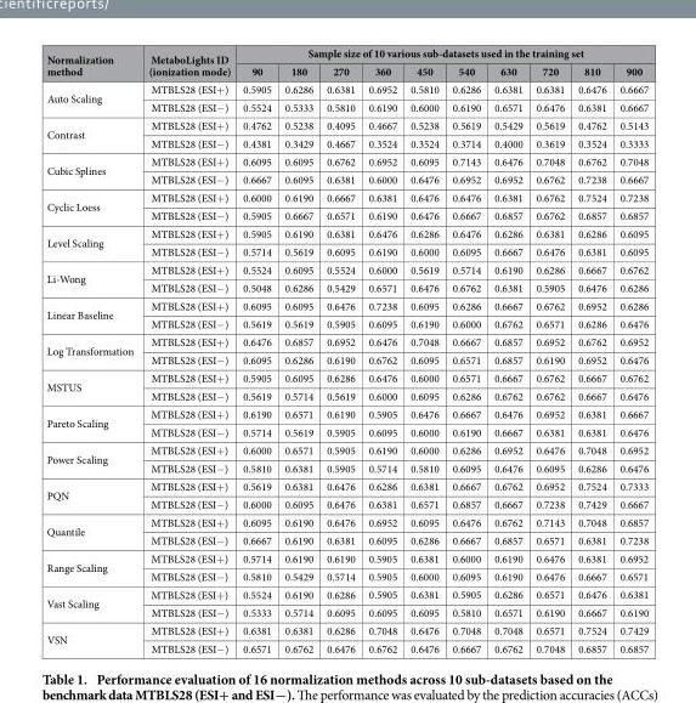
<table><thead><tr><td rowspan="2">Normalization method</td><td rowspan="2">MetaboLights ID (ionization mode)</td><td colspan="10">Sample size of 10 various sub-datasets used in the training set</td></tr><tr><td>90</td><td>180</td><td>270</td><td>360</td><td>450</td><td>540</td><td>630</td><td>720</td><td>810</td><td>900</td></tr></thead><tbody><tr><td rowspan="2">Auto Scaling</td><td>MTBLS28 (ESI+ )</td><td>0.5905</td><td>0.6286</td><td>0.6381</td><td>0.6952</td><td>0.5810</td><td>0.6286</td><td>0.6381</td><td>0.6381</td><td>0.6476</td><td>0.6667</td></tr><tr><td>MTBLS28 (ESI− )</td><td>0.5524</td><td>0.5333</td><td>0.5810</td><td>0.6190</td><td>0.6000</td><td>0.6190</td><td>0.6571</td><td>0.6476</td><td>0.6381</td><td>0.6667</td></tr><tr><td rowspan="2">Contrast</td><td>MTBLS28 (ESI+ )</td><td>0.4762</td><td>0.5238</td><td>0.4095</td><td>0.4667</td><td>0.5238</td><td>0.5619</td><td>0.5429</td><td>0.5619</td><td>0.4762</td><td>0.5143</td></tr><tr><td>MTBLS28 (ESI− )</td><td>0.4381</td><td>0.3429</td><td>0.4667</td><td>0.3524</td><td>0.3524</td><td>0.3714</td><td>0.4000</td><td>0.3619</td><td>0.3524</td><td>0.3333</td></tr><tr><td rowspan="2">Cubic Splines</td><td>MTBLS28 (ESI+ )</td><td>0.6095</td><td>0.6095</td><td>0.6762</td><td>0.6952</td><td>0.6095</td><td>0.7143</td><td>0.6476</td><td>0.7048</td><td>0.6762</td><td>0.7048</td></tr><tr><td>MTBLS28 (ESI− )</td><td>0.6667</td><td>0.6095</td><td>0.6381</td><td>0.6000</td><td>0.6476</td><td>0.6952</td><td>0.6952</td><td>0.6762</td><td>0.7238</td><td>0.6667</td></tr><tr><td rowspan="2">Cyclic Loess</td><td>MTBLS28 (ESI+ )</td><td>0.6000</td><td>0.6190</td><td>0.6667</td><td>0.6381</td><td>0.6476</td><td>0.6476</td><td>0.6381</td><td>0.6762</td><td>0.7524</td><td>0.7238</td></tr><tr><td>MTBLS28 (ESI− )</td><td>0.5905</td><td>0.6667</td><td>0.6571</td><td>0.6190</td><td>0.6476</td><td>0.6667</td><td>0.6857</td><td>0.6762</td><td>0.6857</td><td>0.6857</td></tr><tr><td rowspan="2">Level Scaling</td><td>MTBLS28 (ESI+ )</td><td>0.5905</td><td>0.6190</td><td>0.6381</td><td>0.6476</td><td>0.6286</td><td>0.6476</td><td>0.6286</td><td>0.6381</td><td>0.6286</td><td>0.6095</td></tr><tr><td>MTBLS28 (ESI− )</td><td>0.5714</td><td>0.5619</td><td>0.6095</td><td>0.6190</td><td>0.6000</td><td>0.6095</td><td>0.6667</td><td>0.6476</td><td>0.6381</td><td>0.6095</td></tr><tr><td rowspan="2">Li-Wong</td><td>MTBLS28 (ESI+ )</td><td>0.5524</td><td>0.6095</td><td>0.5524</td><td>0.6000</td><td>0.5619</td><td>0.5714</td><td>0.6190</td><td>0.6286</td><td>0.6667</td><td>0.6762</td></tr><tr><td>MTBLS28 (ESI− )</td><td>0.5048</td><td>0.6286</td><td>0.5429</td><td>0.6571</td><td>0.6476</td><td>0.6762</td><td>0.6381</td><td>0.5905</td><td>0.6476</td><td>0.6286</td></tr><tr><td rowspan="2">Linear Baseline</td><td>MTBLS28 (ESI+ )</td><td>0.6095</td><td>0.6095</td><td>0.6476</td><td>0.7238</td><td>0.6095</td><td>0.6286</td><td>0.6667</td><td>0.6762</td><td>0.6952</td><td>0.6286</td></tr><tr><td>MTBLS28 (ESI− )</td><td>0.5619</td><td>0.5619</td><td>0.5905</td><td>0.6095</td><td>0.6190</td><td>0.6000</td><td>0.6762</td><td>0.6571</td><td>0.6286</td><td>0.6476</td></tr><tr><td rowspan="2">Log Transformation</td><td>MTBLS28 (ESI+ )</td><td>0.6476</td><td>0.6857</td><td>0.6952</td><td>0.6476</td><td>0.7048</td><td>0.6667</td><td>0.6857</td><td>0.6952</td><td>0.6762</td><td>0.6952</td></tr><tr><td>MTBLS28 (ESI− )</td><td>0.6095</td><td>0.6286</td><td>0.6190</td><td>0.6762</td><td>0.6095</td><td>0.6571</td><td>0.6857</td><td>0.6190</td><td>0.6952</td><td>0.6476</td></tr><tr><td rowspan="2">MSTUS</td><td>MTBLS28 (ESI+ )</td><td>0.5905</td><td>0.6095</td><td>0.6286</td><td>0.6476</td><td>0.6000</td><td>0.6571</td><td>0.6667</td><td>0.6762</td><td>0.6667</td><td>0.6762</td></tr><tr><td>MTBLS28 (ESI− )</td><td>0.5619</td><td>0.5714</td><td>0.5619</td><td>0.6000</td><td>0.6095</td><td>0.6286</td><td>0.6762</td><td>0.6762</td><td>0.6667</td><td>0.6476</td></tr><tr><td rowspan="2">Pareto Scaling</td><td>MTBLS28 (ESI+ )</td><td>0.6190</td><td>0.6571</td><td>0.6190</td><td>0.5905</td><td>0.6476</td><td>0.6667</td><td>0.6476</td><td>0.6952</td><td>0.6381</td><td>0.6667</td></tr><tr><td>MTBLS28 (ESI− )</td><td>0.5714</td><td>0.5619</td><td>0.5905</td><td>0.6095</td><td>0.6000</td><td>0.6190</td><td>0.6667</td><td>0.6381</td><td>0.6381</td><td>0.6476</td></tr><tr><td rowspan="2">Power Scaling</td><td>MTBLS28 (ESI+ )</td><td>0.6000</td><td>0.6571</td><td>0.5905</td><td>0.6190</td><td>0.6000</td><td>0.6286</td><td>0.6952</td><td>0.6476</td><td>0.7048</td><td>0.6952</td></tr><tr><td>MTBLS28 (ESI− )</td><td>0.5810</td><td>0.6381</td><td>0.5905</td><td>0.5714</td><td>0.5810</td><td>0.6095</td><td>0.6476</td><td>0.6095</td><td>0.6286</td><td>0.6476</td></tr><tr><td rowspan="2">PQN</td><td>MTBLS28 (ESI+ )</td><td>0.5619</td><td>0.6381</td><td>0.6476</td><td>0.6286</td><td>0.6381</td><td>0.6667</td><td>0.6762</td><td>0.6952</td><td>0.7524</td><td>0.7333</td></tr><tr><td>MTBLS28 (ESI− )</td><td>0.6000</td><td>0.6095</td><td>0.6476</td><td>0.6381</td><td>0.6571</td><td>0.6857</td><td>0.6667</td><td>0.7238</td><td>0.7429</td><td>0.6667</td></tr><tr><td rowspan="2">Quantile</td><td>MTBLS28 (ESI+ )</td><td>0.6095</td><td>0.6190</td><td>0.6476</td><td>0.6952</td><td>0.6095</td><td>0.6476</td><td>0.6762</td><td>0.7143</td><td>0.7048</td><td>0.6857</td></tr><tr><td>MTBLS28 (ESI− )</td><td>0.6667</td><td>0.6190</td><td>0.6381</td><td>0.6095</td><td>0.6286</td><td>0.6667</td><td>0.6857</td><td>0.6571</td><td>0.6381</td><td>0.7238</td></tr><tr><td rowspan="2">Range Scaling</td><td>MTBLS28 (ESI+ )</td><td>0.5714</td><td>0.6190</td><td>0.6190</td><td>0.5905</td><td>0.6381</td><td>0.6000</td><td>0.6190</td><td>0.6476</td><td>0.6381</td><td>0.6952</td></tr><tr><td>MTBLS28 (ESI− )</td><td>0.5810</td><td>0.5429</td><td>0.5714</td><td>0.5905</td><td>0.6000</td><td>0.6095</td><td>0.6190</td><td>0.6476</td><td>0.6667</td><td>0.6571</td></tr><tr><td rowspan="2">Vast Scaling</td><td>MTBLS28 (ESI+ )</td><td>0.5524</td><td>0.6190</td><td>0.6286</td><td>0.5905</td><td>0.6381</td><td>0.5905</td><td>0.6286</td><td>0.6571</td><td>0.6476</td><td>0.6381</td></tr><tr><td>MTBLS28 (ESI− )</td><td>0.5333</td><td>0.5714</td><td>0.6095</td><td>0.6095</td><td>0.6095</td><td>0.5810</td><td>0.6571</td><td>0.6190</td><td>0.6667</td><td>0.6190</td></tr><tr><td rowspan="2">VSN</td><td>MTBLS28 (ESI+ )</td><td>0.6381</td><td>0.6381</td><td>0.6286</td><td>0.7048</td><td>0.6476</td><td>0.7048</td><td>0.7048</td><td>0.6571</td><td>0.7524</td><td>0.7429</td></tr><tr><td>MTBLS28 (ESI− )</td><td>0.6571</td><td>0.6762</td><td>0.6476</td><td>0.6762</td><td>0.6476</td><td>0.6667</td><td>0.6762</td><td>0.7048</td><td>0.6857</td><td>0.6857</td></tr></tbody></table>